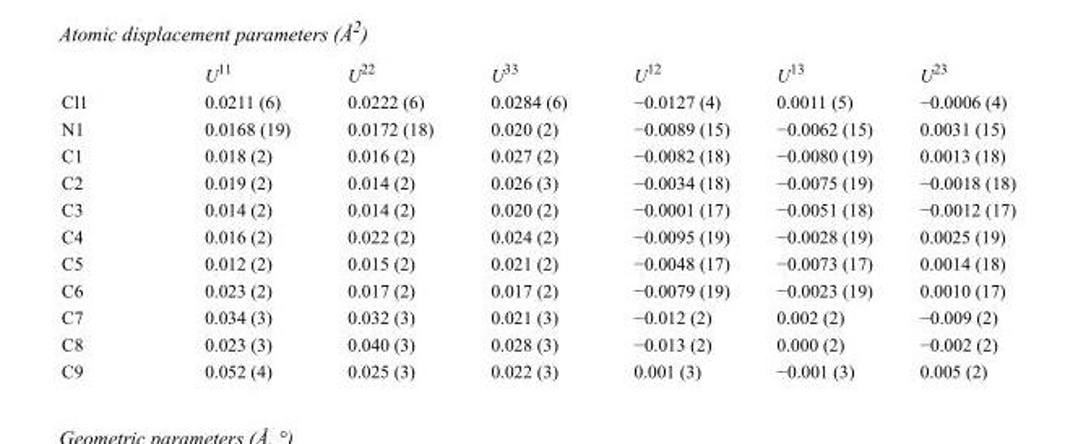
<table><thead><tr><td></td><td>U<sup>11</sup></td><td>U<sup>22</sup></td><td>U<sup>33</sup></td><td>U<sup>12</sup></td><td>U<sup>13</sup></td><td>U<sup>23</sup></td></tr></thead><tbody><tr><td>Cl1</td><td>0.0211 (6)</td><td>0.0222 (6)</td><td>0.0284 (6)</td><td>−0.0127 (4)</td><td>0.0011 (5)</td><td>−0.0006 (4)</td></tr><tr><td>N1</td><td>0.0168 (19)</td><td>0.0172 (18)</td><td>0.020 (2)</td><td>−0.0089 (15)</td><td>−0.0062 (15)</td><td>0.0031 (15)</td></tr><tr><td>C1</td><td>0.018 (2)</td><td>0.016 (2)</td><td>0.027 (2)</td><td>−0.0082 (18)</td><td>−0.0080 (19)</td><td>0.0013 (18)</td></tr><tr><td>C2</td><td>0.019 (2)</td><td>0.014 (2)</td><td>0.026 (3)</td><td>−0.0034 (18)</td><td>−0.0075 (19)</td><td>−0.0018 (18)</td></tr><tr><td>C3</td><td>0.014 (2)</td><td>0.014 (2)</td><td>0.020 (2)</td><td>−0.0001 (17)</td><td>−0.0051 (18)</td><td>−0.0012 (17)</td></tr><tr><td>C4</td><td>0.016 (2)</td><td>0.022 (2)</td><td>0.024 (2)</td><td>−0.0095 (19)</td><td>−0.0028 (19)</td><td>0.0025 (19)</td></tr><tr><td>C5</td><td>0.012 (2)</td><td>0.015 (2)</td><td>0.021 (2)</td><td>−0.0048 (17)</td><td>−0.0073 (17)</td><td>0.0014 (18)</td></tr><tr><td>C6</td><td>0.023 (2)</td><td>0.017 (2)</td><td>0.017 (2)</td><td>−0.0079 (19)</td><td>−0.0023 (19)</td><td>0.0010 (17)</td></tr><tr><td>C7</td><td>0.034 (3)</td><td>0.032 (3)</td><td>0.021 (3)</td><td>−0.012 (2)</td><td>0.002 (2)</td><td>−0.009 (2)</td></tr><tr><td>C8</td><td>0.023 (3)</td><td>0.040 (3)</td><td>0.028 (3)</td><td>−0.013 (2)</td><td>0.000 (2)</td><td>−0.002 (2)</td></tr><tr><td>C9</td><td>0.052 (4)</td><td>0.025 (3)</td><td>0.022 (3)</td><td>0.001 (3)</td><td>−0.001 (3)</td><td>0.005 (2)</td></tr></tbody></table>